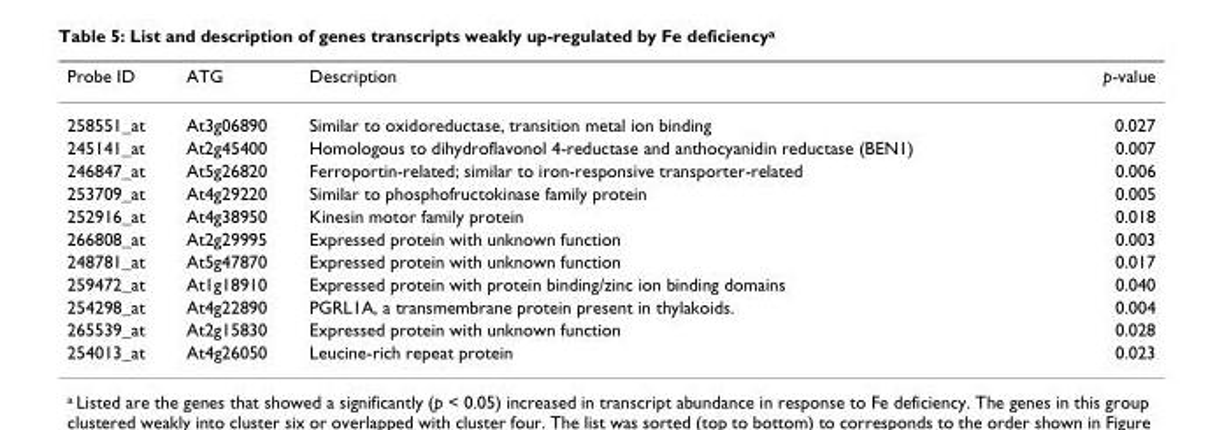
<table><thead><tr><td>Probe ID</td><td>ATG</td><td>Description</td><td>p-value</td></tr></thead><tbody><tr><td>258551_at</td><td>At3g06890</td><td>Similar to oxidoreductase, transition metal ion binding</td><td>0.027</td></tr><tr><td>245141_at</td><td>At2g45400</td><td>Homologous to dihydroflavonol 4-reductase and anthocyanidin reductase (BEN1)</td><td>0.007</td></tr><tr><td>246847_at</td><td>At5g26820</td><td>Ferroportin-related; similar to iron-responsive transporter-related</td><td>0.006</td></tr><tr><td>253709_at</td><td>At4g29220</td><td>Similar to phosphofructokinase family protein</td><td>0.005</td></tr><tr><td>252916_at</td><td>At4g38950</td><td>Kinesin motor family protein</td><td>0.018</td></tr><tr><td>266808_at</td><td>At2g29995</td><td>Expressed protein with unknown function</td><td>0.003</td></tr><tr><td>248781_at</td><td>At5g47870</td><td>Expressed protein with unknown function</td><td>0.017</td></tr><tr><td>259472_at</td><td>At1g18910</td><td>Expressed protein with protein binding/zinc ion binding domains</td><td>0.040</td></tr><tr><td>254298_at</td><td>At4g22890</td><td>PGRL1A, a transmembrane protein present in thylakoids.</td><td>0.004</td></tr><tr><td>265539_at</td><td>At2g15830</td><td>Expressed protein with unknown function</td><td>0.028</td></tr><tr><td>254013_at</td><td>At4g26050</td><td>Leucine-rich repeat protein</td><td>0.023</td></tr></tbody></table>